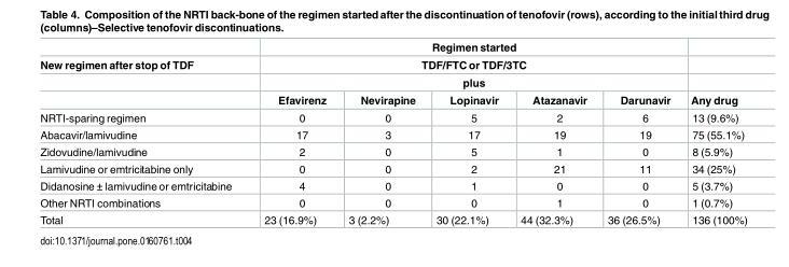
<table><thead><tr><td rowspan="4">New regimen after stop of TDF</td><td rowspan="3" colspan="5">Regimen started TDF/FTC or TDF/3TC plus</td><td rowspan="4">Any drug</td></tr><tr></tr><tr></tr><tr><td>Efavirenz</td><td>Nevirapine</td><td>Lopinavir</td><td>Atazanavir</td><td>Darunavir</td></tr></thead><tbody><tr><td>NRTI-sparing regimen</td><td>0</td><td>0</td><td>5</td><td>2</td><td>6</td><td>13 (9.6%)</td></tr><tr><td>Abacavir/lamivudine</td><td>17</td><td>3</td><td>17</td><td>19</td><td>19</td><td>75 (55.1%)</td></tr><tr><td>Zidovudine/lamivudine</td><td>2</td><td>0</td><td>5</td><td>1</td><td>0</td><td>8 (5.9%)</td></tr><tr><td>Lamivudine or emtricitabine only</td><td>0</td><td>0</td><td>2</td><td>21</td><td>11</td><td>34 (25%)</td></tr><tr><td>Didanosine ± lamivudine or emtricitabine</td><td>4</td><td>0</td><td>1</td><td>0</td><td>0</td><td>5 (3.7%)</td></tr><tr><td>Other NRTI combinations</td><td>0</td><td>0</td><td>0</td><td>1</td><td>0</td><td>1 (0.7%)</td></tr><tr><td>Total</td><td>23 (16.9%)</td><td>3 (2.2%)</td><td>30 (22.1%)</td><td>44 (32.3%)</td><td>36 (26.5%)</td><td>136 (100%)</td></tr></tbody></table>